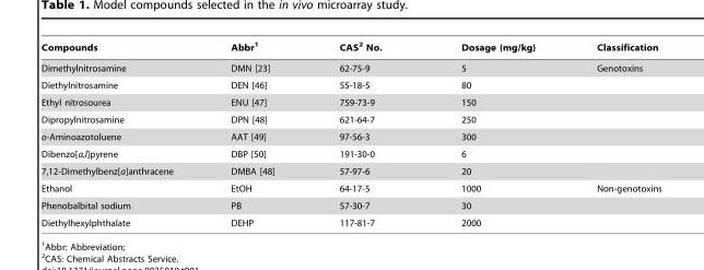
<table><thead><tr><td>Compounds</td><td>Abbr<sup>1</sup></td><td>CAS<sup>2</sup> No.</td><td>Dosage (mg/kg)</td><td>Classification</td></tr></thead><tbody><tr><td>Dimethylnitrosamine</td><td>DMN [23]</td><td>62-75-9</td><td>5</td><td>Genotoxins</td></tr><tr><td>Diethylnitrosamine</td><td>DEN [46]</td><td>55-18-5</td><td>80</td><td></td></tr><tr><td>Ethyl nitrosourea</td><td>ENU [47]</td><td>759-73-9</td><td>150</td><td></td></tr><tr><td>Dipropylnitrosamine</td><td>DPN [48]</td><td>621-64-7</td><td>250</td><td></td></tr><tr><td>o-Aminoazotoluene</td><td>AAT [49]</td><td>97-56-3</td><td>300</td><td></td></tr><tr><td>Dibenzo[a,l]pyrene</td><td>DBP [50]</td><td>191-30-0</td><td>6</td><td></td></tr><tr><td>7,12-Dimethylbenz[a]anthracene</td><td>DMBA [48]</td><td>57-97-6</td><td>20</td><td></td></tr><tr><td>Ethanol</td><td>EtOH</td><td>64-17-5</td><td>1000</td><td>Non-genotoxins</td></tr><tr><td>Phenobalbital sodium</td><td>PB</td><td>57-30-7</td><td>30</td><td></td></tr><tr><td>Diethylhexylphthalate</td><td>DEHP</td><td>117-81-7</td><td>2000</td><td></td></tr></tbody></table>